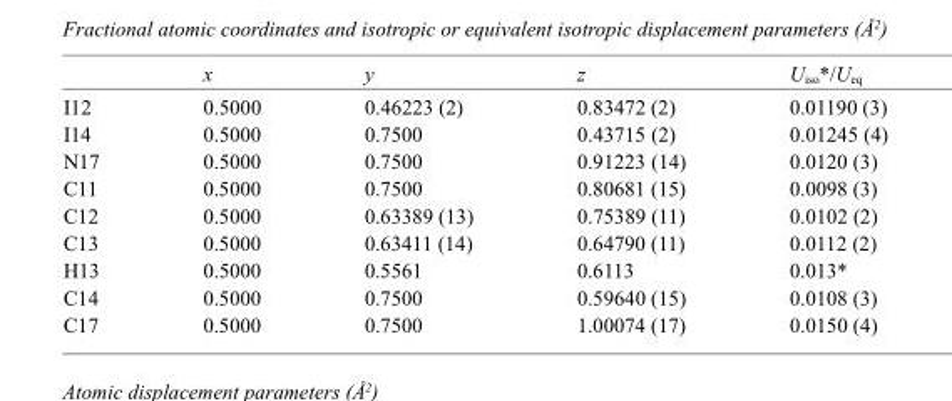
<table><thead><tr><td></td><td>x</td><td>y</td><td>z</td><td>U<sub>iso</sub>*/U<sub>eq</sub></td></tr></thead><tbody><tr><td>I12</td><td>0.5000</td><td>0.46223 (2)</td><td>0.83472 (2)</td><td>0.01190 (3)</td></tr><tr><td>I14</td><td>0.5000</td><td>0.7500</td><td>0.43715 (2)</td><td>0.01245 (4)</td></tr><tr><td>N17</td><td>0.5000</td><td>0.7500</td><td>0.91223 (14)</td><td>0.0120 (3)</td></tr><tr><td>C11</td><td>0.5000</td><td>0.7500</td><td>0.80681 (15)</td><td>0.0098 (3)</td></tr><tr><td>C12</td><td>0.5000</td><td>0.63389 (13)</td><td>0.75389 (11)</td><td>0.0102 (2)</td></tr><tr><td>C13</td><td>0.5000</td><td>0.63411 (14)</td><td>0.64790 (11)</td><td>0.0112 (2)</td></tr><tr><td>H13</td><td>0.5000</td><td>0.5561</td><td>0.6113</td><td>0.013*</td></tr><tr><td>C14</td><td>0.5000</td><td>0.7500</td><td>0.59640 (15)</td><td>0.0108 (3)</td></tr><tr><td>C17</td><td>0.5000</td><td>0.7500</td><td>1.00074 (17)</td><td>0.0150 (4)</td></tr></tbody></table>